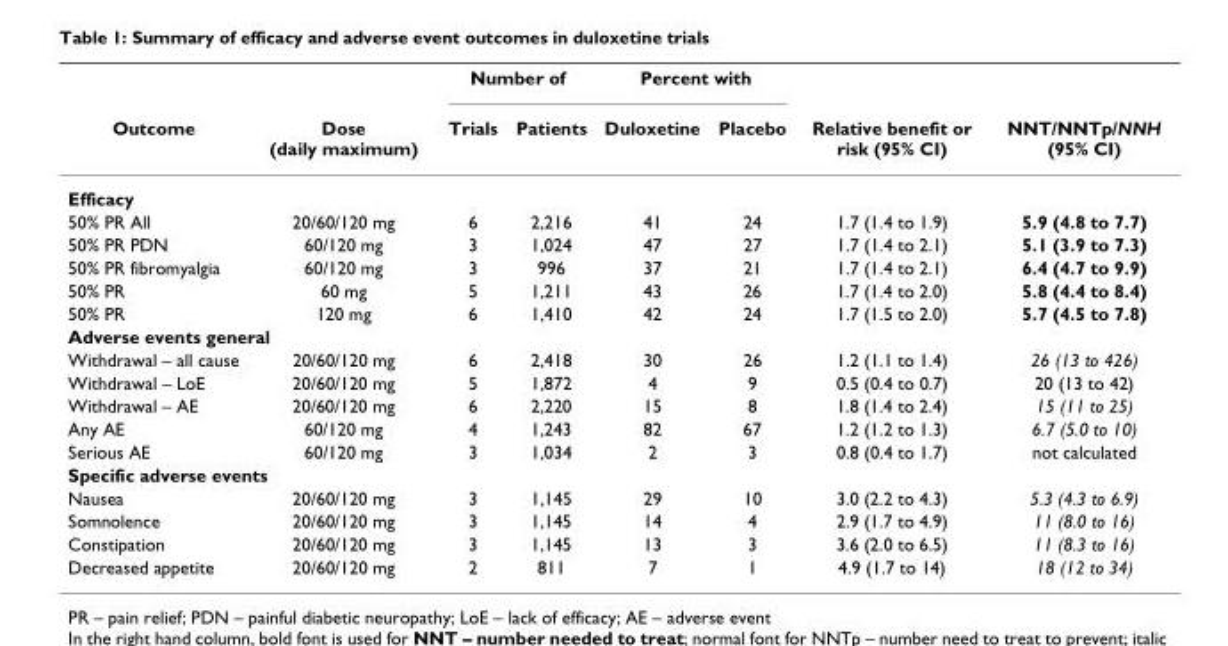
<table><thead><tr><td rowspan="2">Outcome</td><td rowspan="2">Dose (daily maximum)</td><td colspan="2">Number of</td><td colspan="2">Percent with</td><td rowspan="2">Relative benefit or risk (95% CI)</td><td rowspan="2">NNT/NNTp/NNH (95% CI)</td></tr><tr><td>Trials</td><td>Patients</td><td>Duloxetine</td><td>Placebo</td></tr></thead><tbody><tr><td colspan="8">Efficacy</td></tr><tr><td>50% PR All</td><td>20/60/120 mg</td><td>6</td><td>2,216</td><td>41</td><td>24</td><td>1.7 (1.4 to 1.9)</td><td>5.9 (4.8 to 7.7)</td></tr><tr><td>50% PR PDN</td><td>60/120 mg</td><td>3</td><td>1,024</td><td>47</td><td>27</td><td>1.7 (1.4 to 2.1)</td><td>5.1 (3.9 to 7.3)</td></tr><tr><td>50% PR fibromyalgia</td><td>60/120 mg</td><td>3</td><td>996</td><td>37</td><td>21</td><td>1.7 (1.4 to 2.1)</td><td>6.4 (4.7 to 9.9)</td></tr><tr><td>50% PR</td><td>60 mg</td><td>5</td><td>1,211</td><td>43</td><td>26</td><td>1.7 (1.4 to 2.0)</td><td>5.8 (4.4 to 8.4)</td></tr><tr><td>50% PR</td><td>120 mg</td><td>6</td><td>1,410</td><td>42</td><td>24</td><td>1.7 (1.5 to 2.0)</td><td>5.7 (4.5 to 7.8)</td></tr><tr><td colspan="8">Adverse events general</td></tr><tr><td>Withdrawal – all cause</td><td>20/60/120 mg</td><td>6</td><td>2,418</td><td>30</td><td>26</td><td>1.2 (1.1 to 1.4)</td><td>26 (13 to 426)</td></tr><tr><td>Withdrawal – LoE</td><td>20/60/120 mg</td><td>5</td><td>1,872</td><td>4</td><td>9</td><td>0.5 (0.4 to 0.7)</td><td>20 (13 to 42)</td></tr><tr><td>Withdrawal – AE</td><td>20/60/120 mg</td><td>6</td><td>2,220</td><td>15</td><td>8</td><td>1.8 (1.4 to 2.4)</td><td>15 (11 to 25)</td></tr><tr><td>Any AE</td><td>60/120 mg</td><td>4</td><td>1,243</td><td>82</td><td>67</td><td>1.2 (1.2 to 1.3)</td><td>6.7 (5.0 to 10)</td></tr><tr><td>Serious AE</td><td>60/120 mg</td><td>3</td><td>1,034</td><td>2</td><td>3</td><td>0.8 (0.4 to 1.7)</td><td>not calculated</td></tr><tr><td colspan="8">Specific adverse events</td></tr><tr><td>Nausea</td><td>20/60/120 mg</td><td>3</td><td>1,145</td><td>29</td><td>10</td><td>3.0 (2.2 to 4.3)</td><td>5.3 (4.3 to 6.9)</td></tr><tr><td>Somnolence</td><td>20/60/120 mg</td><td>3</td><td>1,145</td><td>14</td><td>4</td><td>2.9 (1.7 to 4.9)</td><td>11 (8.0 to 16)</td></tr><tr><td>Constipation</td><td>20/60/120 mg</td><td>3</td><td>1,145</td><td>13</td><td>3</td><td>3.6 (2.0 to 6.5)</td><td>11 (8.3 to 16)</td></tr><tr><td>Decreased appetite</td><td>20/60/120 mg</td><td>2</td><td>811</td><td>7</td><td>1</td><td>4.9 (1.7 to 14)</td><td>18 (12 to 34)</td></tr></tbody></table>